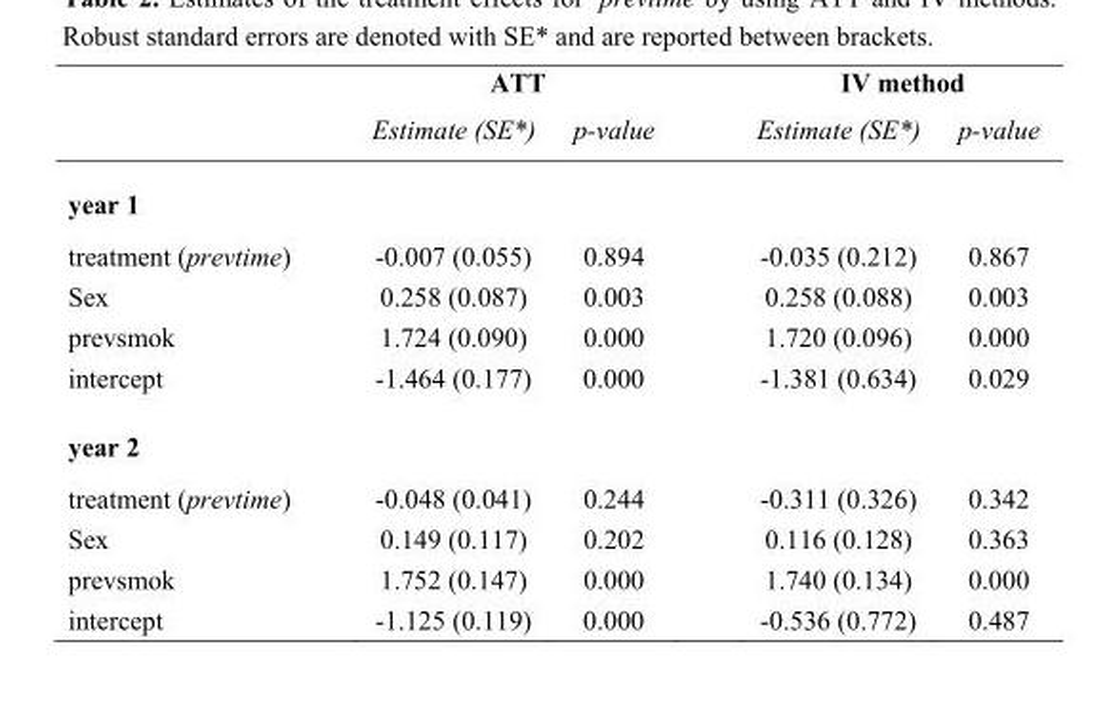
<table><thead><tr><td rowspan="2"></td><td colspan="2">ATT</td><td colspan="2">IV method</td></tr><tr><td>Estimate (SE*)</td><td>p-value</td><td>Estimate (SE*)</td><td>p-value</td></tr></thead><tbody><tr><td colspan="5">year 1</td></tr><tr><td>treatment (prevtime)</td><td>-0.007 (0.055)</td><td>0.894</td><td>-0.035 (0.212)</td><td>0.867</td></tr><tr><td>Sex</td><td>0.258 (0.087)</td><td>0.003</td><td>0.258 (0.088)</td><td>0.003</td></tr><tr><td>prevsmok</td><td>1.724 (0.090)</td><td>0.000</td><td>1.720 (0.096)</td><td>0.000</td></tr><tr><td>intercept</td><td>-1.464 (0.177)</td><td>0.000</td><td>-1.381 (0.634)</td><td>0.029</td></tr><tr><td colspan="5">year 2</td></tr><tr><td>treatment (prevtime)</td><td>-0.048 (0.041)</td><td>0.244</td><td>-0.311 (0.326)</td><td>0.342</td></tr><tr><td>Sex</td><td>0.149 (0.117)</td><td>0.202</td><td>0.116 (0.128)</td><td>0.363</td></tr><tr><td>prevsmok</td><td>1.752 (0.147)</td><td>0.000</td><td>1.740 (0.134)</td><td>0.000</td></tr><tr><td>intercept</td><td>-1.125 (0.119)</td><td>0.000</td><td>-0.536 (0.772)</td><td>0.487</td></tr></tbody></table>